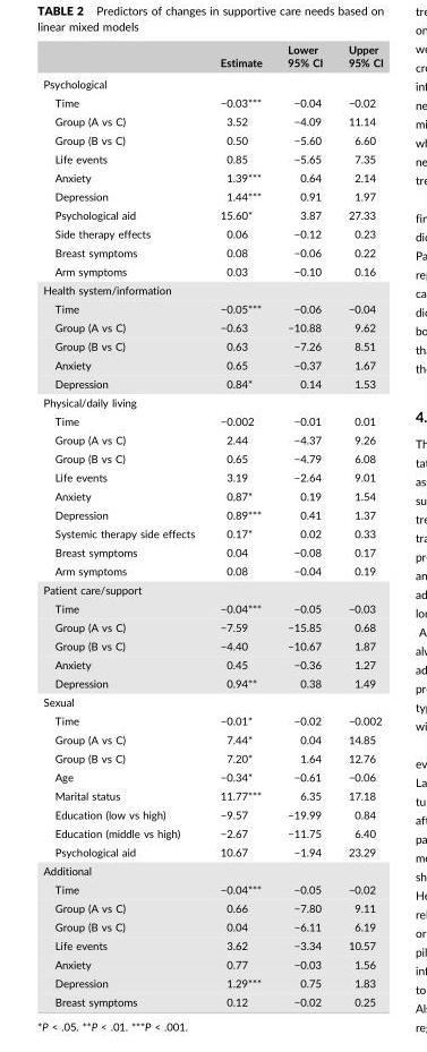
<table><thead><tr><td></td><td>Estimate</td><td>Lower 95% CI</td><td>Upper 95% CI</td></tr></thead><tbody><tr><td colspan="4">Psychological</td></tr><tr><td>Time</td><td>−0.03***</td><td>−0.04</td><td>−0.02</td></tr><tr><td>Group (A vs C)</td><td>3.52</td><td>−4.09</td><td>11.14</td></tr><tr><td>Group (B vs C)</td><td>0.50</td><td>−5.60</td><td>6.60</td></tr><tr><td>Life events</td><td>0.85</td><td>−5.65</td><td>7.35</td></tr><tr><td>Anxiety</td><td>1.39***</td><td>0.64</td><td>2.14</td></tr><tr><td>Depression</td><td>1.44***</td><td>0.91</td><td>1.97</td></tr><tr><td>Psychological aid</td><td>15.60*</td><td>3.87</td><td>27.33</td></tr><tr><td>Side therapy effects</td><td>0.06</td><td>−0.12</td><td>0.23</td></tr><tr><td>Breast symptoms</td><td>0.08</td><td>−0.06</td><td>0.22</td></tr><tr><td>Arm symptoms</td><td>0.03</td><td>−0.10</td><td>0.16</td></tr><tr><td colspan="4">Health system/information</td></tr><tr><td>Time</td><td>−0.05***</td><td>−0.06</td><td>−0.04</td></tr><tr><td>Group (A vs C)</td><td>−0.63</td><td>−10.88</td><td>9.62</td></tr><tr><td>Group (B vs C)</td><td>0.63</td><td>−7.26</td><td>8.51</td></tr><tr><td>Anxiety</td><td>0.65</td><td>−0.37</td><td>1.67</td></tr><tr><td>Depression</td><td>0.84*</td><td>0.14</td><td>1.53</td></tr><tr><td colspan="4">Physical/daily living</td></tr><tr><td>Time</td><td>−0.002</td><td>−0.01</td><td>0.01</td></tr><tr><td>Group (A vs C)</td><td>2.44</td><td>−4.37</td><td>9.26</td></tr><tr><td>Group (B vs C)</td><td>0.65</td><td>−4.79</td><td>6.08</td></tr><tr><td>Life events</td><td>3.19</td><td>−2.64</td><td>9.01</td></tr><tr><td>Anxiety</td><td>0.87*</td><td>0.19</td><td>1.54</td></tr><tr><td>Depression</td><td>0.89***</td><td>0.41</td><td>1.37</td></tr><tr><td>Systemic therapy side effects</td><td>0.17*</td><td>0.02</td><td>0.33</td></tr><tr><td>Breast symptoms</td><td>0.04</td><td>−0.08</td><td>0.17</td></tr><tr><td>Arm symptoms</td><td>0.08</td><td>−0.04</td><td>0.19</td></tr><tr><td colspan="4">Patient care/support</td></tr><tr><td>Time</td><td>−0.04***</td><td>−0.05</td><td>−0.03</td></tr><tr><td>Group (A vs C)</td><td>−7.59</td><td>−15.85</td><td>0.68</td></tr><tr><td>Group (B vs C)</td><td>−4.40</td><td>−10.67</td><td>1.87</td></tr><tr><td>Anxiety</td><td>0.45</td><td>−0.36</td><td>1.27</td></tr><tr><td>Depression</td><td>0.94**</td><td>0.38</td><td>1.49</td></tr><tr><td colspan="4">Sexual</td></tr><tr><td>Time</td><td>−0.01*</td><td>−0.02</td><td>−0.002</td></tr><tr><td>Group (A vs C)</td><td>7.44*</td><td>0.04</td><td>14.85</td></tr><tr><td>Group (B vs C)</td><td>7.20*</td><td>1.64</td><td>12.76</td></tr><tr><td>Age</td><td>−0.34*</td><td>−0.61</td><td>−0.06</td></tr><tr><td>Marital status</td><td>11.77***</td><td>6.35</td><td>17.18</td></tr><tr><td>Education (low vs high)</td><td>−9.57</td><td>−19.99</td><td>0.84</td></tr><tr><td>Education (middle vs high)</td><td>−2.67</td><td>−11.75</td><td>6.40</td></tr><tr><td>Psychological aid</td><td>10.67</td><td>−1.94</td><td>23.29</td></tr><tr><td colspan="4">Additional</td></tr><tr><td>Time</td><td>−0.04***</td><td>−0.05</td><td>−0.02</td></tr><tr><td>Group (A vs C)</td><td>0.66</td><td>−7.80</td><td>9.11</td></tr><tr><td>Group (B vs C)</td><td>0.04</td><td>−6.11</td><td>6.19</td></tr><tr><td>Life events</td><td>3.62</td><td>−3.34</td><td>10.57</td></tr><tr><td>Anxiety</td><td>0.77</td><td>−0.03</td><td>1.56</td></tr><tr><td>Depression</td><td>1.29***</td><td>0.75</td><td>1.83</td></tr><tr><td>Breast symptoms</td><td>0.12</td><td>−0.02</td><td>0.25</td></tr></tbody></table>